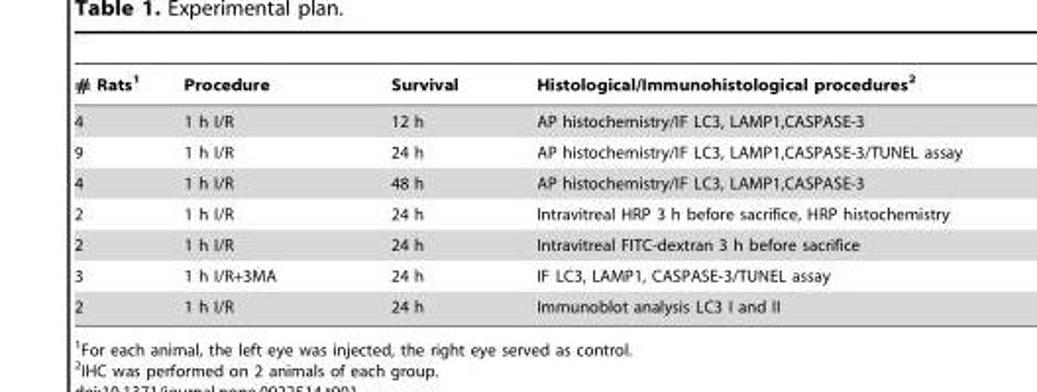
<table><thead><tr><td># Rats<sup>1</sup></td><td>Procedure</td><td>Survival</td><td>Histological/Immunohistological procedures<sup>2</sup></td></tr></thead><tbody><tr><td>4</td><td>1 h I/R</td><td>12 h</td><td>AP histochemistry/IF LC3, LAMP1,CASPASE-3</td></tr><tr><td>9</td><td>1 h I/R</td><td>24 h</td><td>AP histochemistry/IF LC3, LAMP1,CASPASE-3/TUNEL assay</td></tr><tr><td>4</td><td>1 h I/R</td><td>48 h</td><td>AP histochemistry/IF LC3, LAMP1,CASPASE-3</td></tr><tr><td>2</td><td>1 h I/R</td><td>24 h</td><td>Intravitreal HRP 3 h before sacrifice, HRP histochemistry</td></tr><tr><td>2</td><td>1 h I/R</td><td>24 h</td><td>Intravitreal FITC-dextran 3 h before sacrifice</td></tr><tr><td>3</td><td>1 h I/R+3MA</td><td>24 h</td><td>IF LC3, LAMP1, CASPASE-3/TUNEL assay</td></tr><tr><td>2</td><td>1 h I/R</td><td>24 h</td><td>Immunoblot analysis LC3 I and II</td></tr></tbody></table>